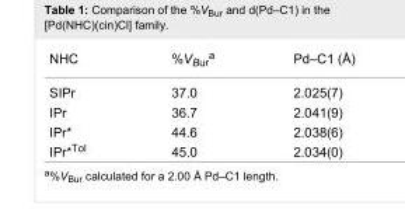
<table><tbody><tr><td>NHC</td><td>%V<sub>Bur</sub><sup>a</sup></td><td>Pd–C1 (Å)</td></tr><tr><td>SIPr</td><td>37.0</td><td>2.025(7)</td></tr><tr><td>IPr</td><td>36.7</td><td>2.041(9)</td></tr><tr><td>IPr*</td><td>44.6</td><td>2.038(6)</td></tr><tr><td>IPr*<sup>Tol</sup></td><td>45.0</td><td>2.034(0)</td></tr></tbody></table>